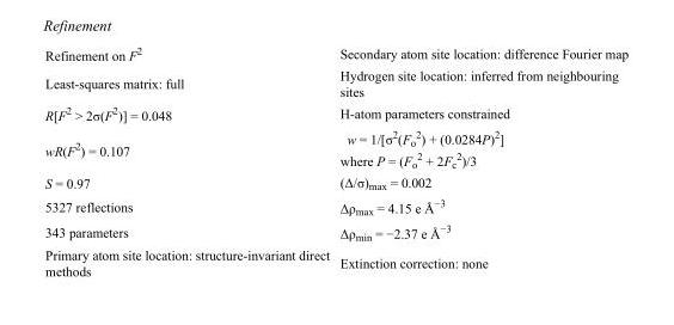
<table><tbody><tr><td>Refinement on F<sup>2</sup></td><td>Secondary atom site location: difference Fourier map</td></tr><tr><td>Least-squares matrix: full</td><td>Hydrogen site location: inferred from neighbouring sites</td></tr><tr><td>R[F<sup>2</sup> &gt; 2σ(F<sup>2</sup>)] = 0.048</td><td>H-atom parameters constrained</td></tr><tr><td>wR(F<sup>2</sup>) = 0.107</td><td>w = 1/[σ<sup>2</sup>(F<sub>o</sub> <sup>2</sup>) + (0.0284P)<sup>2</sup>] where P = (F<sub>o</sub> <sup>2</sup> + 2F<sub>c</sub> <sup>2</sup>)/3</td></tr><tr><td>S = 0.97</td><td>(Δ/σ)<sub>max</sub> = 0.002</td></tr><tr><td>5327 reflections</td><td>Δρ<sub>max</sub> = 4.15 e Å<sup>−3</sup></td></tr><tr><td>343 parameters</td><td>Δρ<sub>min</sub> = −2.37 e Å<sup>−3</sup></td></tr><tr><td>Primary atom site location: structure-invariant direct methods</td><td>Extinction correction: none</td></tr></tbody></table>